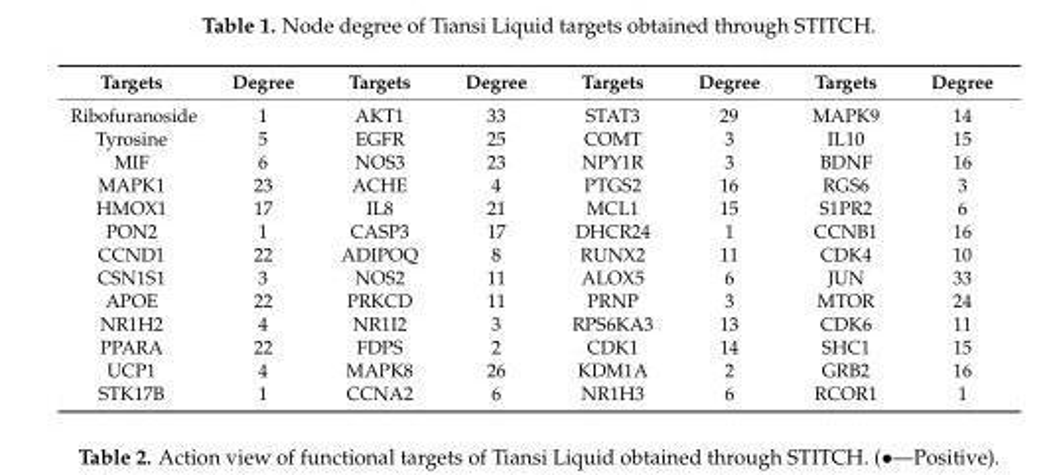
<table><thead><tr><td>Targets</td><td>Degree</td><td>Targets</td><td>Degree</td><td>Targets</td><td>Degree</td><td>Targets</td><td>Degree</td></tr></thead><tbody><tr><td>Ribofuranoside</td><td>1</td><td>AKT1</td><td>33</td><td>STAT3</td><td>29</td><td>MAPK9</td><td>14</td></tr><tr><td>Tyrosine</td><td>5</td><td>EGFR</td><td>25</td><td>COMT</td><td>3</td><td>IL10</td><td>15</td></tr><tr><td>MIF</td><td>6</td><td>NOS3</td><td>23</td><td>NPY1R</td><td>3</td><td>BDNF</td><td>16</td></tr><tr><td>MAPK1</td><td>23</td><td>ACHE</td><td>4</td><td>PTGS2</td><td>16</td><td>RGS6</td><td>3</td></tr><tr><td>HMOX1</td><td>17</td><td>IL8</td><td>21</td><td>MCL1</td><td>15</td><td>S1PR2</td><td>6</td></tr><tr><td>PON2</td><td>1</td><td>CASP3</td><td>17</td><td>DHCR24</td><td>1</td><td>CCNB1</td><td>16</td></tr><tr><td>CCND1</td><td>22</td><td>ADIPOQ</td><td>8</td><td>RUNX2</td><td>11</td><td>CDK4</td><td>10</td></tr><tr><td>CSN1S1</td><td>3</td><td>NOS2</td><td>11</td><td>ALOX5</td><td>6</td><td>JUN</td><td>33</td></tr><tr><td>APOE</td><td>22</td><td>PRKCD</td><td>11</td><td>PRNP</td><td>3</td><td>MTOR</td><td>24</td></tr><tr><td>NR1H2</td><td>4</td><td>NR1I2</td><td>3</td><td>RPS6KA3</td><td>13</td><td>CDK6</td><td>11</td></tr><tr><td>PPARA</td><td>22</td><td>FDPS</td><td>2</td><td>CDK1</td><td>14</td><td>SHC1</td><td>15</td></tr><tr><td>UCP1</td><td>4</td><td>MAPK8</td><td>26</td><td>KDM1A</td><td>2</td><td>GRB2</td><td>16</td></tr><tr><td>STK17B</td><td>1</td><td>CCNA2</td><td>6</td><td>NR1H3</td><td>6</td><td>RCOR1</td><td>1</td></tr></tbody></table>